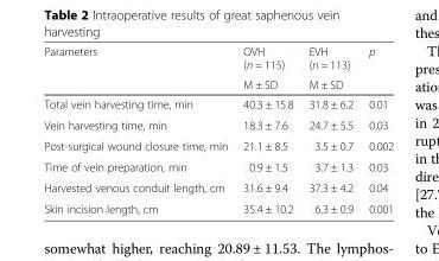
<table><thead><tr><td rowspan="2">Parameters</td><td rowspan="2">OVH (n = 115) М ± SD</td><td rowspan="2">EVH (n = 113) М ± SD</td><td rowspan="2">р</td></tr><tr></tr></thead><tbody><tr><td>Total vein harvesting time, min</td><td>40.3 ± 15.8</td><td>31.8 ± 6.2</td><td>0.01</td></tr><tr><td>Vein harvesting time, min</td><td>18.3 ± 7.6</td><td>24.7 ± 5.5</td><td>0.03</td></tr><tr><td>Post-surgical wound closure time, min</td><td>21.1 ± 8.5</td><td>3.5 ± 0.7</td><td>0.002</td></tr><tr><td>Time of vein preparation, min</td><td>0.9 ± 1.5</td><td>3.7 ± 1.3</td><td>0.03</td></tr><tr><td>Harvested venous conduit length, cm</td><td>31.6 ± 9.4</td><td>37.3 ± 4.2</td><td>0.04</td></tr><tr><td>Skin incision length, cm</td><td>35.4 ± 10.2</td><td>6.3 ± 0.9</td><td>0.001</td></tr></tbody></table>